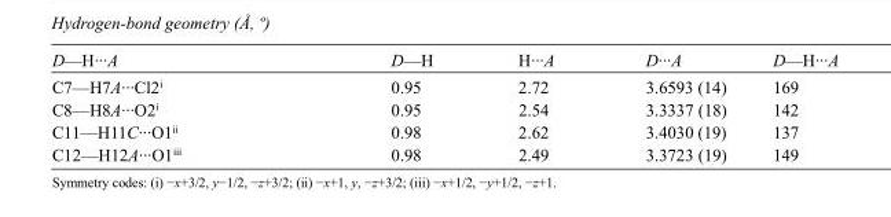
<table><tbody><tr><td>D—H···A</td><td>D—H</td><td>H···A</td><td>D···A</td><td>D—H···A</td></tr><tr><td>C7—H7A···Cl2<sup>i</sup></td><td>0.95</td><td>2.72</td><td>3.6593 (14)</td><td>169</td></tr><tr><td>C8—H8A···O2<sup>i</sup></td><td>0.95</td><td>2.54</td><td>3.3337 (18)</td><td>142</td></tr><tr><td>C11—H11C···O1<sup>ii</sup></td><td>0.98</td><td>2.62</td><td>3.4030 (19)</td><td>137</td></tr><tr><td>C12—H12A···O1<sup>iii</sup></td><td>0.98</td><td>2.49</td><td>3.3723 (19)</td><td>149</td></tr></tbody></table>